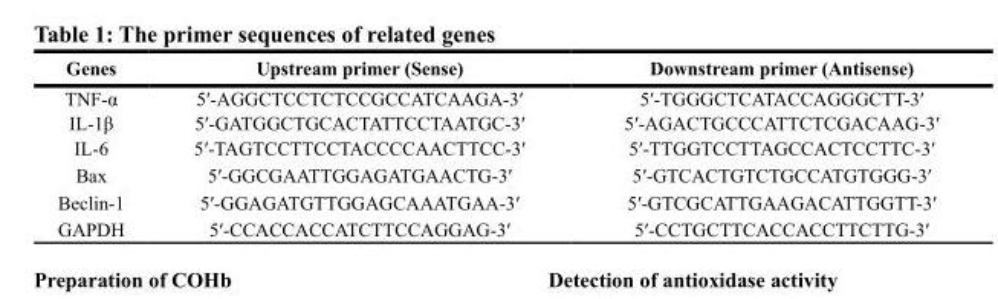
<table><thead><tr><td>Genes</td><td>Upstream primer (Sense)</td><td>Downstream primer (Antisense)</td></tr></thead><tbody><tr><td>TNF-α</td><td>5′-AGGCTCCTCTCCGCCATCAAGA-3′</td><td>5′-TGGGCTCATACCAGGGCTT-3′</td></tr><tr><td>IL-1β</td><td>5′-GATGGCTGCACTATTCCTAATGC-3′</td><td>5′-AGACTGCCCATTCTCGACAAG-3′</td></tr><tr><td>IL-6</td><td>5′-TAGTCCTTCCTACCCCAACTTCC-3′</td><td>5′-TTGGTCCTTAGCCACTCCTTC-3′</td></tr><tr><td>Bax</td><td>5′-GGCGAATTGGAGATGAACTG-3′</td><td>5′-GTCACTGTCTGCCATGTGGG-3′</td></tr><tr><td>Beclin-1</td><td>5′-GGAGATGTTGGAGCAAATGAA-3′</td><td>5′-GTCGCATTGAAGACATTGGTT-3′</td></tr><tr><td>GAPDH</td><td>5′-CCACCACCATCTTCCAGGAG-3′</td><td>5′-CCTGCTTCACCACCTTCTTG-3′</td></tr></tbody></table>